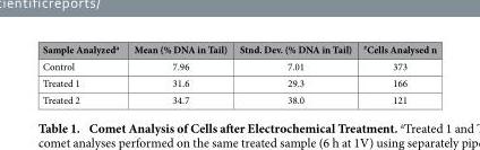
<table><thead><tr><td>Sample Analyzed<sup>a</sup></td><td>Mean (% DNA in Tail)</td><td>Stnd. Dev. (% DNA in Tail)</td><td><sup>#</sup>Cells Analysed n</td></tr></thead><tbody><tr><td>Control</td><td>7.96</td><td>7.01</td><td>373</td></tr><tr><td>Treated 1</td><td>31.6</td><td>29.3</td><td>166</td></tr><tr><td>Treated 2</td><td>34.7</td><td>38.0</td><td>121</td></tr></tbody></table>